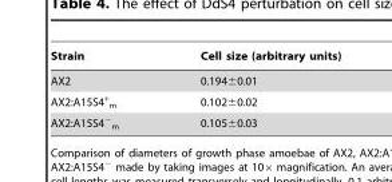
<table><thead><tr><td>Strain</td><td>Cell size (arbitrary units)</td></tr></thead><tbody><tr><td>AX2</td><td>0.194±0.01</td></tr><tr><td>AX2:A15S4<sup>+</sup> <sub>m</sub></td><td>0.102±0.02</td></tr><tr><td>AX2:A15S4<sup>−</sup> <sub>m</sub></td><td>0.105±0.03</td></tr></tbody></table>